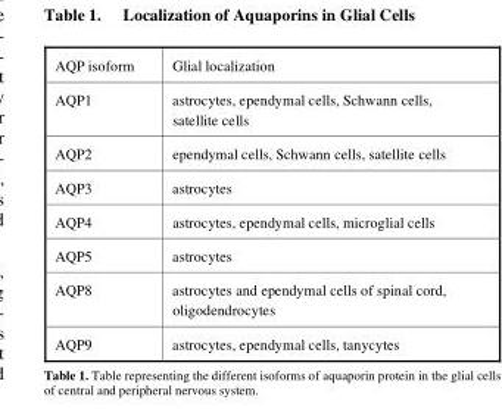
<table><tbody><tr><td>AQP isoform</td><td>Glial localization</td></tr><tr><td>AQP1</td><td>astrocytes, ependymal cells, Schwann cells, satellite cells</td></tr><tr><td>AQP2</td><td>ependymal cells, Schwann cells, satellite cells</td></tr><tr><td>AQP3</td><td>astrocytes</td></tr><tr><td>AQP4</td><td>astrocytes, ependymal cells, microglial cells</td></tr><tr><td>AQP5</td><td>astrocytes</td></tr><tr><td>AQP8</td><td>astrocytes and ependymal cells of spinal cord, oligodendrocytes</td></tr><tr><td>AQP9</td><td>astrocytes, ependymal cells, tanycytes</td></tr></tbody></table>